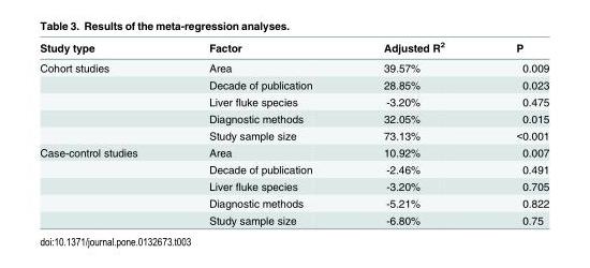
<table><thead><tr><td>Study type</td><td>Factor</td><td>Adjusted R<sup>2</sup></td><td>P</td></tr></thead><tbody><tr><td rowspan="5">Cohort studies</td><td>Area</td><td>39.57%</td><td>0.009</td></tr><tr><td>Decade of publication</td><td>28.85%</td><td>0.023</td></tr><tr><td>Liver fluke species</td><td>-3.20%</td><td>0.475</td></tr><tr><td>Diagnostic methods</td><td>32.05%</td><td>0.015</td></tr><tr><td>Study sample size</td><td>73.13%</td><td>&lt;0.001</td></tr><tr><td rowspan="5">Case-control studies</td><td>Area</td><td>10.92%</td><td>0.007</td></tr><tr><td>Decade of publication</td><td>-2.46%</td><td>0.491</td></tr><tr><td>Liver fluke species</td><td>-3.20%</td><td>0.705</td></tr><tr><td>Diagnostic methods</td><td>-5.21%</td><td>0.822</td></tr><tr><td>Study sample size</td><td>-6.80%</td><td>0.75</td></tr></tbody></table>